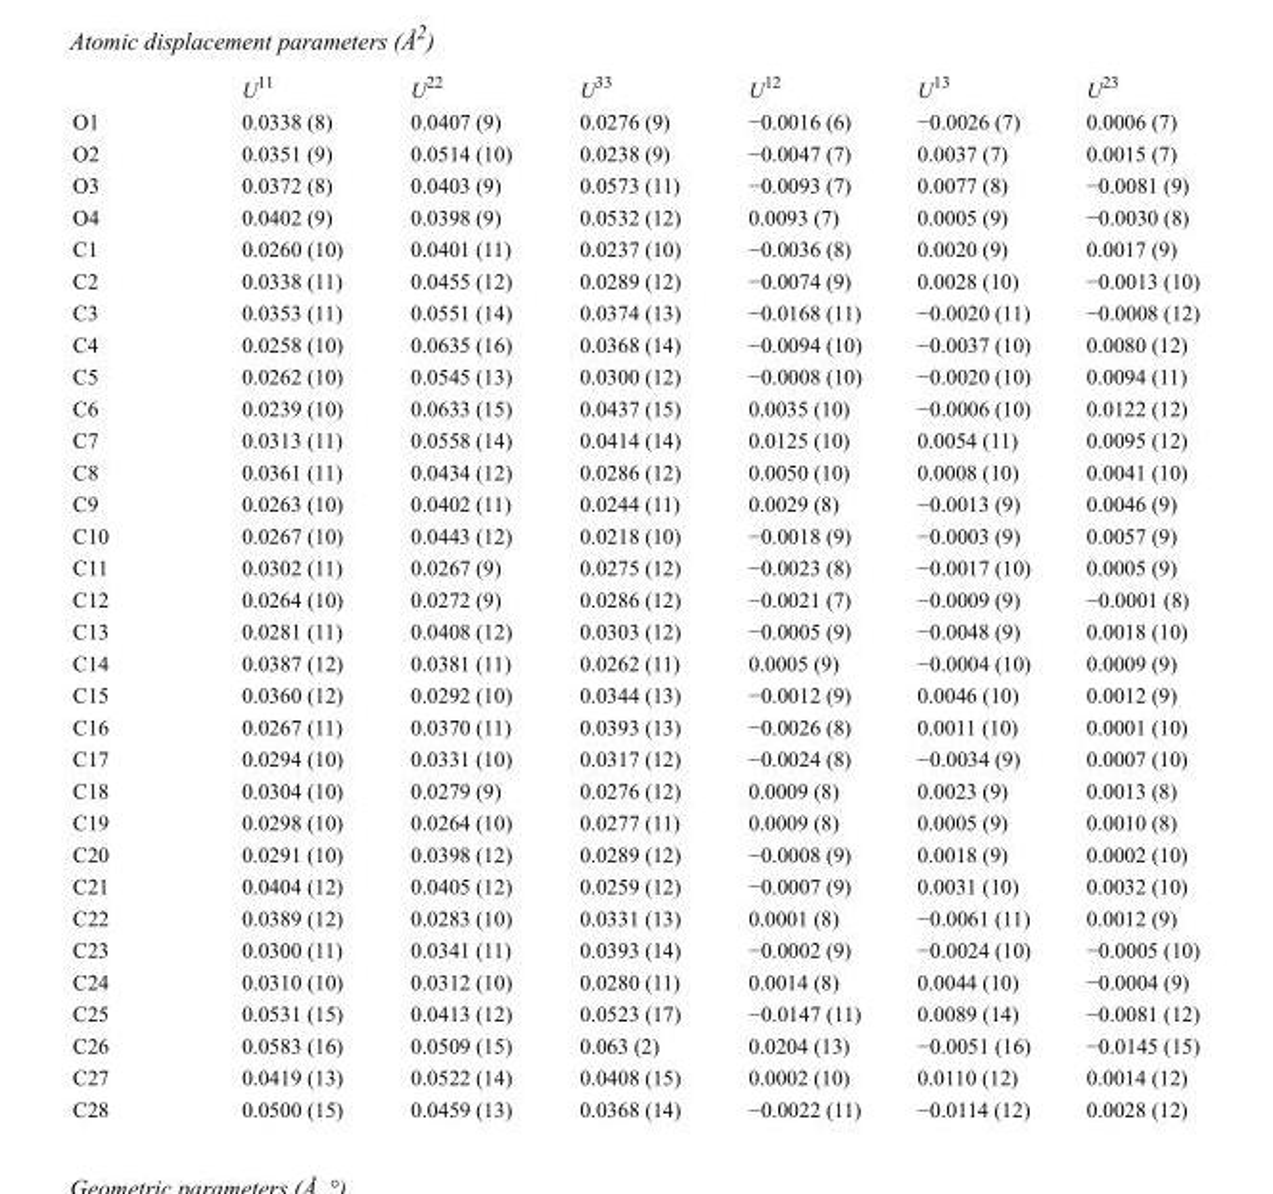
<table><thead><tr><td></td><td>U<sup>11</sup></td><td>U<sup>22</sup></td><td>U<sup>33</sup></td><td>U<sup>12</sup></td><td>U<sup>13</sup></td><td>U<sup>23</sup></td></tr></thead><tbody><tr><td>O1</td><td>0.0338 (8)</td><td>0.0407 (9)</td><td>0.0276 (9)</td><td>−0.0016 (6)</td><td>−0.0026 (7)</td><td>0.0006 (7)</td></tr><tr><td>O2</td><td>0.0351 (9)</td><td>0.0514 (10)</td><td>0.0238 (9)</td><td>−0.0047 (7)</td><td>0.0037 (7)</td><td>0.0015 (7)</td></tr><tr><td>O3</td><td>0.0372 (8)</td><td>0.0403 (9)</td><td>0.0573 (11)</td><td>−0.0093 (7)</td><td>0.0077 (8)</td><td>−0.0081 (9)</td></tr><tr><td>O4</td><td>0.0402 (9)</td><td>0.0398 (9)</td><td>0.0532 (12)</td><td>0.0093 (7)</td><td>0.0005 (9)</td><td>−0.0030 (8)</td></tr><tr><td>C1</td><td>0.0260 (10)</td><td>0.0401 (11)</td><td>0.0237 (10)</td><td>−0.0036 (8)</td><td>0.0020 (9)</td><td>0.0017 (9)</td></tr><tr><td>C2</td><td>0.0338 (11)</td><td>0.0455 (12)</td><td>0.0289 (12)</td><td>−0.0074 (9)</td><td>0.0028 (10)</td><td>−0.0013 (10)</td></tr><tr><td>C3</td><td>0.0353 (11)</td><td>0.0551 (14)</td><td>0.0374 (13)</td><td>−0.0168 (11)</td><td>−0.0020 (11)</td><td>−0.0008 (12)</td></tr><tr><td>C4</td><td>0.0258 (10)</td><td>0.0635 (16)</td><td>0.0368 (14)</td><td>−0.0094 (10)</td><td>−0.0037 (10)</td><td>0.0080 (12)</td></tr><tr><td>C5</td><td>0.0262 (10)</td><td>0.0545 (13)</td><td>0.0300 (12)</td><td>−0.0008 (10)</td><td>−0.0020 (10)</td><td>0.0094 (11)</td></tr><tr><td>C6</td><td>0.0239 (10)</td><td>0.0633 (15)</td><td>0.0437 (15)</td><td>0.0035 (10)</td><td>−0.0006 (10)</td><td>0.0122 (12)</td></tr><tr><td>C7</td><td>0.0313 (11)</td><td>0.0558 (14)</td><td>0.0414 (14)</td><td>0.0125 (10)</td><td>0.0054 (11)</td><td>0.0095 (12)</td></tr><tr><td>C8</td><td>0.0361 (11)</td><td>0.0434 (12)</td><td>0.0286 (12)</td><td>0.0050 (10)</td><td>0.0008 (10)</td><td>0.0041 (10)</td></tr><tr><td>C9</td><td>0.0263 (10)</td><td>0.0402 (11)</td><td>0.0244 (11)</td><td>0.0029 (8)</td><td>−0.0013 (9)</td><td>0.0046 (9)</td></tr><tr><td>C10</td><td>0.0267 (10)</td><td>0.0443 (12)</td><td>0.0218 (10)</td><td>−0.0018 (9)</td><td>−0.0003 (9)</td><td>0.0057 (9)</td></tr><tr><td>C11</td><td>0.0302 (11)</td><td>0.0267 (9)</td><td>0.0275 (12)</td><td>−0.0023 (8)</td><td>−0.0017 (10)</td><td>0.0005 (9)</td></tr><tr><td>C12</td><td>0.0264 (10)</td><td>0.0272 (9)</td><td>0.0286 (12)</td><td>−0.0021 (7)</td><td>−0.0009 (9)</td><td>−0.0001 (8)</td></tr><tr><td>C13</td><td>0.0281 (11)</td><td>0.0408 (12)</td><td>0.0303 (12)</td><td>−0.0005 (9)</td><td>−0.0048 (9)</td><td>0.0018 (10)</td></tr><tr><td>C14</td><td>0.0387 (12)</td><td>0.0381 (11)</td><td>0.0262 (11)</td><td>0.0005 (9)</td><td>−0.0004 (10)</td><td>0.0009 (9)</td></tr><tr><td>C15</td><td>0.0360 (12)</td><td>0.0292 (10)</td><td>0.0344 (13)</td><td>−0.0012 (9)</td><td>0.0046 (10)</td><td>0.0012 (9)</td></tr><tr><td>C16</td><td>0.0267 (11)</td><td>0.0370 (11)</td><td>0.0393 (13)</td><td>−0.0026 (8)</td><td>0.0011 (10)</td><td>0.0001 (10)</td></tr><tr><td>C17</td><td>0.0294 (10)</td><td>0.0331 (10)</td><td>0.0317 (12)</td><td>−0.0024 (8)</td><td>−0.0034 (9)</td><td>0.0007 (10)</td></tr><tr><td>C18</td><td>0.0304 (10)</td><td>0.0279 (9)</td><td>0.0276 (12)</td><td>0.0009 (8)</td><td>0.0023 (9)</td><td>0.0013 (8)</td></tr><tr><td>C19</td><td>0.0298 (10)</td><td>0.0264 (10)</td><td>0.0277 (11)</td><td>0.0009 (8)</td><td>0.0005 (9)</td><td>0.0010 (8)</td></tr><tr><td>C20</td><td>0.0291 (10)</td><td>0.0398 (12)</td><td>0.0289 (12)</td><td>−0.0008 (9)</td><td>0.0018 (9)</td><td>0.0002 (10)</td></tr><tr><td>C21</td><td>0.0404 (12)</td><td>0.0405 (12)</td><td>0.0259 (12)</td><td>−0.0007 (9)</td><td>0.0031 (10)</td><td>0.0032 (10)</td></tr><tr><td>C22</td><td>0.0389 (12)</td><td>0.0283 (10)</td><td>0.0331 (13)</td><td>0.0001 (8)</td><td>−0.0061 (11)</td><td>0.0012 (9)</td></tr><tr><td>C23</td><td>0.0300 (11)</td><td>0.0341 (11)</td><td>0.0393 (14)</td><td>−0.0002 (9)</td><td>−0.0024 (10)</td><td>−0.0005 (10)</td></tr><tr><td>C24</td><td>0.0310 (10)</td><td>0.0312 (10)</td><td>0.0280 (11)</td><td>0.0014 (8)</td><td>0.0044 (10)</td><td>−0.0004 (9)</td></tr><tr><td>C25</td><td>0.0531 (15)</td><td>0.0413 (12)</td><td>0.0523 (17)</td><td>−0.0147 (11)</td><td>0.0089 (14)</td><td>−0.0081 (12)</td></tr><tr><td>C26</td><td>0.0583 (16)</td><td>0.0509 (15)</td><td>0.063 (2)</td><td>0.0204 (13)</td><td>−0.0051 (16)</td><td>−0.0145 (15)</td></tr><tr><td>C27</td><td>0.0419 (13)</td><td>0.0522 (14)</td><td>0.0408 (15)</td><td>0.0002 (10)</td><td>0.0110 (12)</td><td>0.0014 (12)</td></tr><tr><td>C28</td><td>0.0500 (15)</td><td>0.0459 (13)</td><td>0.0368 (14)</td><td>−0.0022 (11)</td><td>−0.0114 (12)</td><td>0.0028 (12)</td></tr></tbody></table>